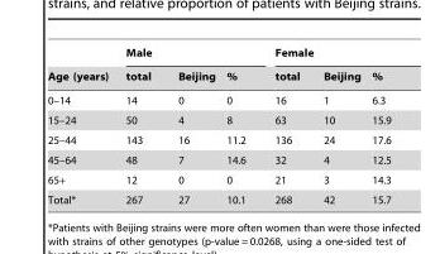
<table><thead><tr><td rowspan="2">Age (years)</td><td colspan="3">Male</td><td colspan="3">Female</td></tr><tr><td>total</td><td>Beijing</td><td>%</td><td>total</td><td>Beijing</td><td>%</td></tr></thead><tbody><tr><td>0–14</td><td>14</td><td>0</td><td>0</td><td>16</td><td>1</td><td>6.3</td></tr><tr><td>15–24</td><td>50</td><td>4</td><td>8</td><td>63</td><td>10</td><td>15.9</td></tr><tr><td>25–44</td><td>143</td><td>16</td><td>11.2</td><td>136</td><td>24</td><td>17.6</td></tr><tr><td>45–64</td><td>48</td><td>7</td><td>14.6</td><td>32</td><td>4</td><td>12.5</td></tr><tr><td>65+</td><td>12</td><td>0</td><td>0</td><td>21</td><td>3</td><td>14.3</td></tr><tr><td>Total*</td><td>267</td><td>27</td><td>10.1</td><td>268</td><td>42</td><td>15.7</td></tr></tbody></table>